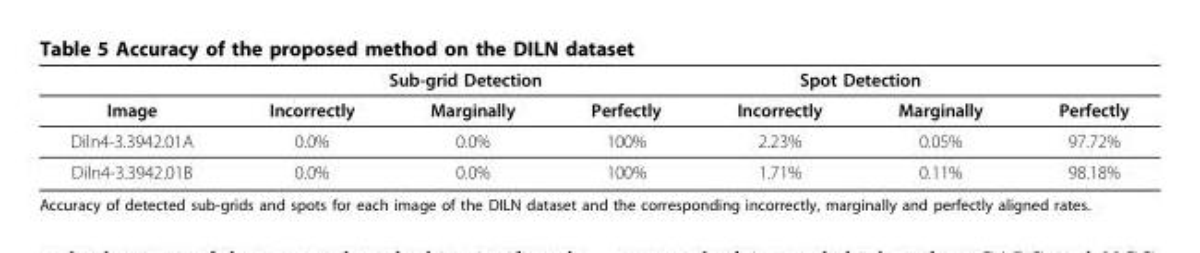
<table><thead><tr><td rowspan="2">Image</td><td colspan="3">Sub-grid Detection</td><td colspan="2">Spot Detection</td><td rowspan="2">Perfectly</td></tr><tr><td>Incorrectly</td><td>Marginally</td><td>Perfectly</td><td>Incorrectly</td><td>Marginally</td></tr></thead><tbody><tr><td>Diln4-3.3942.01A</td><td>0.0%</td><td>0.0%</td><td>100%</td><td>2.23%</td><td>0.05%</td><td>97.72%</td></tr><tr><td>Diln4-3.3942.01B</td><td>0.0%</td><td>0.0%</td><td>100%</td><td>1.71%</td><td>0.11%</td><td>98.18%</td></tr></tbody></table>